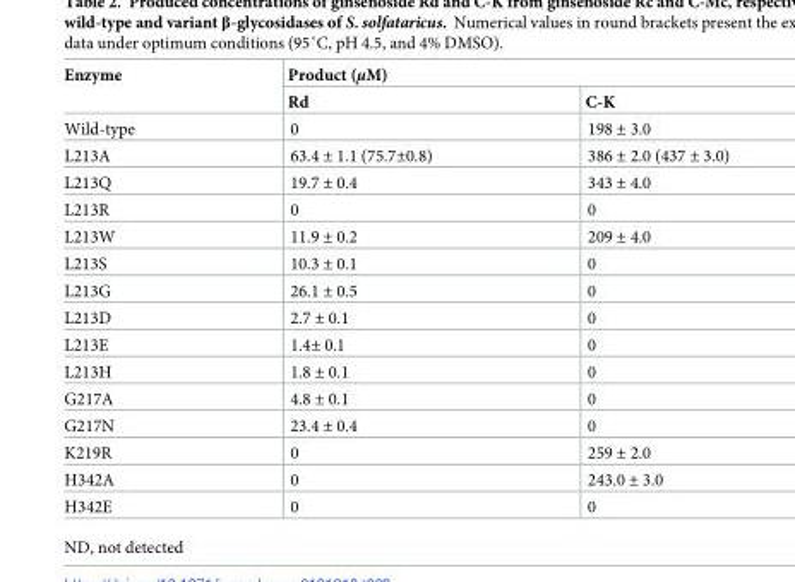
<table><thead><tr><td rowspan="2">Enzyme</td><td colspan="2">Product (μM)</td></tr><tr><td>Rd</td><td>C-K</td></tr></thead><tbody><tr><td>Wild-type</td><td>0</td><td>198 ± 3.0</td></tr><tr><td>L213A</td><td>63.4 ± 1.1 (75.7±0.8)</td><td>386 ± 2.0 (437 ± 3.0)</td></tr><tr><td>L213Q</td><td>19.7 ± 0.4</td><td>343 ± 4.0</td></tr><tr><td>L213R</td><td>0</td><td>0</td></tr><tr><td>L213W</td><td>11.9 ± 0.2</td><td>209 ± 4.0</td></tr><tr><td>L213S</td><td>10.3 ± 0.1</td><td>0</td></tr><tr><td>L213G</td><td>26.1 ± 0.5</td><td>0</td></tr><tr><td>L213D</td><td>2.7 ± 0.1</td><td>0</td></tr><tr><td>L213E</td><td>1.4± 0.1</td><td>0</td></tr><tr><td>L213H</td><td>1.8 ± 0.1</td><td>0</td></tr><tr><td>G217A</td><td>4.8 ± 0.1</td><td>0</td></tr><tr><td>G217N</td><td>23.4 ± 0.4</td><td>0</td></tr><tr><td>K219R</td><td>0</td><td>259 ± 2.0</td></tr><tr><td>H342A</td><td>0</td><td>243.0 ± 3.0</td></tr><tr><td>H342E</td><td>0</td><td>0</td></tr></tbody></table>